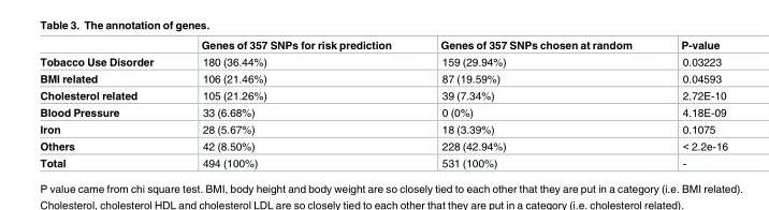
<table><thead><tr><td></td><td>Genes of 357 SNPs for risk prediction</td><td>Genes of 357 SNPs chosen at random</td><td>P-value</td></tr></thead><tbody><tr><td>Tobacco Use Disorder</td><td>180 (36.44%)</td><td>159 (29.94%)</td><td>0.03223</td></tr><tr><td>BMI related</td><td>106 (21.46%)</td><td>87 (19.59%)</td><td>0.04593</td></tr><tr><td>Cholesterol related</td><td>105 (21.26%)</td><td>39 (7.34%)</td><td>2.72E-10</td></tr><tr><td>Blood Pressure</td><td>33 (6.68%)</td><td>0 (0%)</td><td>4.18E-09</td></tr><tr><td>Iron</td><td>28 (5.67%)</td><td>18 (3.39%)</td><td>0.1075</td></tr><tr><td>Others</td><td>42 (8.50%)</td><td>228 (42.94%)</td><td>&lt; 2.2e-16</td></tr><tr><td>Total</td><td>494 (100%)</td><td>531 (100%)</td><td>-</td></tr></tbody></table>